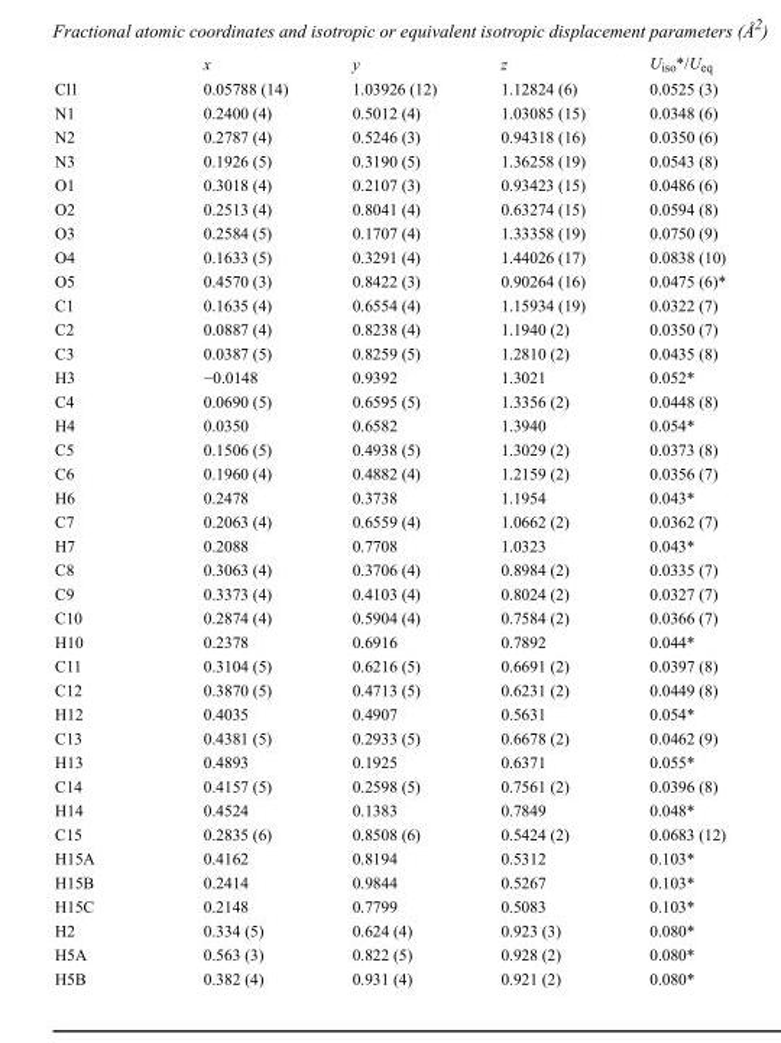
<table><thead><tr><td></td><td>x</td><td>y</td><td>z</td><td>U<sub>iso</sub>*/U<sub>eq</sub></td></tr></thead><tbody><tr><td>Cl1</td><td>0.05788 (14)</td><td>1.03926 (12)</td><td>1.12824 (6)</td><td>0.0525 (3)</td></tr><tr><td>N1</td><td>0.2400 (4)</td><td>0.5012 (4)</td><td>1.03085 (15)</td><td>0.0348 (6)</td></tr><tr><td>N2</td><td>0.2787 (4)</td><td>0.5246 (3)</td><td>0.94318 (16)</td><td>0.0350 (6)</td></tr><tr><td>N3</td><td>0.1926 (5)</td><td>0.3190 (5)</td><td>1.36258 (19)</td><td>0.0543 (8)</td></tr><tr><td>O1</td><td>0.3018 (4)</td><td>0.2107 (3)</td><td>0.93423 (15)</td><td>0.0486 (6)</td></tr><tr><td>O2</td><td>0.2513 (4)</td><td>0.8041 (4)</td><td>0.63274 (15)</td><td>0.0594 (8)</td></tr><tr><td>O3</td><td>0.2584 (5)</td><td>0.1707 (4)</td><td>1.33358 (19)</td><td>0.0750 (9)</td></tr><tr><td>O4</td><td>0.1633 (5)</td><td>0.3291 (4)</td><td>1.44026 (17)</td><td>0.0838 (10)</td></tr><tr><td>O5</td><td>0.4570 (3)</td><td>0.8422 (3)</td><td>0.90264 (16)</td><td>0.0475 (6)*</td></tr><tr><td>C1</td><td>0.1635 (4)</td><td>0.6554 (4)</td><td>1.15934 (19)</td><td>0.0322 (7)</td></tr><tr><td>C2</td><td>0.0887 (4)</td><td>0.8238 (4)</td><td>1.1940 (2)</td><td>0.0350 (7)</td></tr><tr><td>C3</td><td>0.0387 (5)</td><td>0.8259 (5)</td><td>1.2810 (2)</td><td>0.0435 (8)</td></tr><tr><td>H3</td><td>−0.0148</td><td>0.9392</td><td>1.3021</td><td>0.052*</td></tr><tr><td>C4</td><td>0.0690 (5)</td><td>0.6595 (5)</td><td>1.3356 (2)</td><td>0.0448 (8)</td></tr><tr><td>H4</td><td>0.0350</td><td>0.6582</td><td>1.3940</td><td>0.054*</td></tr><tr><td>C5</td><td>0.1506 (5)</td><td>0.4938 (5)</td><td>1.3029 (2)</td><td>0.0373 (8)</td></tr><tr><td>C6</td><td>0.1960 (4)</td><td>0.4882 (4)</td><td>1.2159 (2)</td><td>0.0356 (7)</td></tr><tr><td>H6</td><td>0.2478</td><td>0.3738</td><td>1.1954</td><td>0.043*</td></tr><tr><td>C7</td><td>0.2063 (4)</td><td>0.6559 (4)</td><td>1.0662 (2)</td><td>0.0362 (7)</td></tr><tr><td>H7</td><td>0.2088</td><td>0.7708</td><td>1.0323</td><td>0.043*</td></tr><tr><td>C8</td><td>0.3063 (4)</td><td>0.3706 (4)</td><td>0.8984 (2)</td><td>0.0335 (7)</td></tr><tr><td>C9</td><td>0.3373 (4)</td><td>0.4103 (4)</td><td>0.8024 (2)</td><td>0.0327 (7)</td></tr><tr><td>C10</td><td>0.2874 (4)</td><td>0.5904 (4)</td><td>0.7584 (2)</td><td>0.0366 (7)</td></tr><tr><td>H10</td><td>0.2378</td><td>0.6916</td><td>0.7892</td><td>0.044*</td></tr><tr><td>C11</td><td>0.3104 (5)</td><td>0.6216 (5)</td><td>0.6691 (2)</td><td>0.0397 (8)</td></tr><tr><td>C12</td><td>0.3870 (5)</td><td>0.4713 (5)</td><td>0.6231 (2)</td><td>0.0449 (8)</td></tr><tr><td>H12</td><td>0.4035</td><td>0.4907</td><td>0.5631</td><td>0.054*</td></tr><tr><td>C13</td><td>0.4381 (5)</td><td>0.2933 (5)</td><td>0.6678 (2)</td><td>0.0462 (9)</td></tr><tr><td>H13</td><td>0.4893</td><td>0.1925</td><td>0.6371</td><td>0.055*</td></tr><tr><td>C14</td><td>0.4157 (5)</td><td>0.2598 (5)</td><td>0.7561 (2)</td><td>0.0396 (8)</td></tr><tr><td>H14</td><td>0.4524</td><td>0.1383</td><td>0.7849</td><td>0.048*</td></tr><tr><td>C15</td><td>0.2835 (6)</td><td>0.8508 (6)</td><td>0.5424 (2)</td><td>0.0683 (12)</td></tr><tr><td>H15A</td><td>0.4162</td><td>0.8194</td><td>0.5312</td><td>0.103*</td></tr><tr><td>H15B</td><td>0.2414</td><td>0.9844</td><td>0.5267</td><td>0.103*</td></tr><tr><td>H15C</td><td>0.2148</td><td>0.7799</td><td>0.5083</td><td>0.103*</td></tr><tr><td>H2</td><td>0.334 (5)</td><td>0.624 (4)</td><td>0.923 (3)</td><td>0.080*</td></tr><tr><td>H5A</td><td>0.563 (3)</td><td>0.822 (5)</td><td>0.928 (2)</td><td>0.080*</td></tr><tr><td>H5B</td><td>0.382 (4)</td><td>0.931 (4)</td><td>0.921 (2)</td><td>0.080*</td></tr></tbody></table>